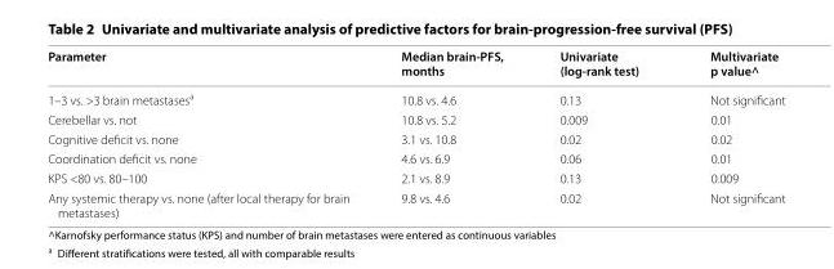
<table><thead><tr><td>Parameter</td><td>Median brain‑PFS, months</td><td>Univariate (log‑rank test)</td><td>Multivariate p value^</td></tr></thead><tbody><tr><td>1–3 vs. &gt;3 brain metastases<sup>a</sup></td><td>10.8 vs. 4.6</td><td>0.13</td><td>Not significant</td></tr><tr><td>Cerebellar vs. not</td><td>10.8 vs. 5.2</td><td>0.009</td><td>0.01</td></tr><tr><td>Cognitive deficit vs. none</td><td>3.1 vs. 10.8</td><td>0.02</td><td>0.02</td></tr><tr><td>Coordination deficit vs. none</td><td>4.6 vs. 6.9</td><td>0.06</td><td>0.01</td></tr><tr><td>KPS &lt;80 vs. 80–100</td><td>2.1 vs. 8.9</td><td>0.13</td><td>0.009</td></tr><tr><td>Any systemic therapy vs. none (after local therapy for brain metastases)</td><td>9.8 vs. 4.6</td><td>0.02</td><td>Not significant</td></tr></tbody></table>